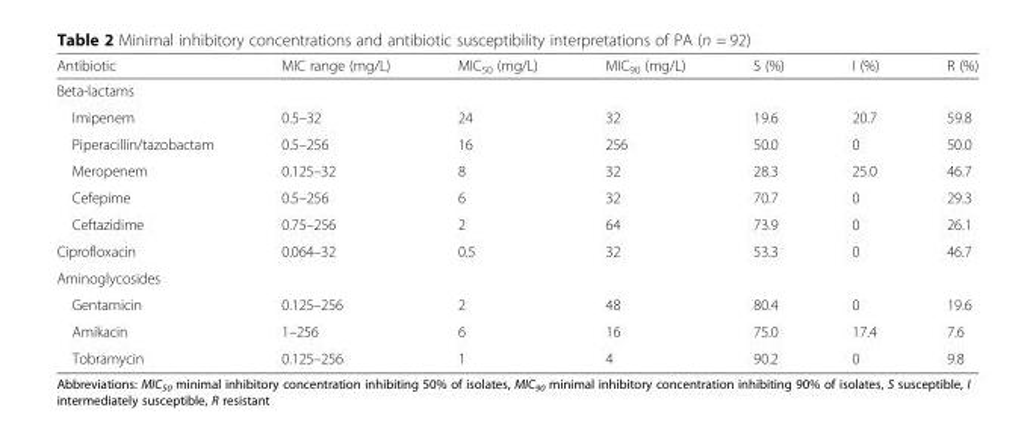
<table><thead><tr><td>Antibiotic</td><td>MIC range (mg/L)</td><td>MIC<sub>50</sub> (mg/L)</td><td>MIC<sub>90</sub> (mg/L)</td><td>S (%)</td><td>I (%)</td><td>R (%)</td></tr></thead><tbody><tr><td colspan="7">Beta-lactams</td></tr><tr><td>Imipenem</td><td>0.5–32</td><td>24</td><td>32</td><td>19.6</td><td>20.7</td><td>59.8</td></tr><tr><td>Piperacillin/tazobactam</td><td>0.5–256</td><td>16</td><td>256</td><td>50.0</td><td>0</td><td>50.0</td></tr><tr><td>Meropenem</td><td>0.125–32</td><td>8</td><td>32</td><td>28.3</td><td>25.0</td><td>46.7</td></tr><tr><td>Cefepime</td><td>0.5–256</td><td>6</td><td>32</td><td>70.7</td><td>0</td><td>29.3</td></tr><tr><td>Ceftazidime</td><td>0.75–256</td><td>2</td><td>64</td><td>73.9</td><td>0</td><td>26.1</td></tr><tr><td>Ciprofloxacin</td><td>0.064–32</td><td>0.5</td><td>32</td><td>53.3</td><td>0</td><td>46.7</td></tr><tr><td colspan="7">Aminoglycosides</td></tr><tr><td>Gentamicin</td><td>0.125–256</td><td>2</td><td>48</td><td>80.4</td><td>0</td><td>19.6</td></tr><tr><td>Amikacin</td><td>1–256</td><td>6</td><td>16</td><td>75.0</td><td>17.4</td><td>7.6</td></tr><tr><td>Tobramycin</td><td>0.125–256</td><td>1</td><td>4</td><td>90.2</td><td>0</td><td>9.8</td></tr></tbody></table>